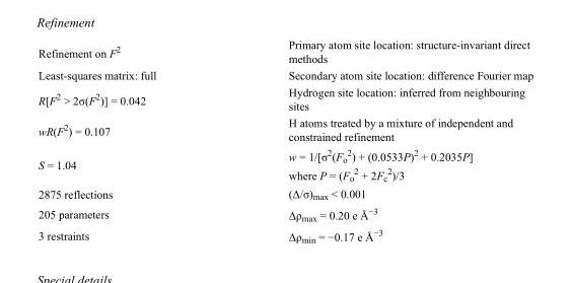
<table><tbody><tr><td>Refinement on F<sup>2</sup></td><td>Primary atom site location: structure-invariant direct methods</td></tr><tr><td>Least-squares matrix: full</td><td>Secondary atom site location: difference Fourier map</td></tr><tr><td>R[F<sup>2</sup> &gt; 2σ(F<sup>2</sup>)] = 0.042</td><td>Hydrogen site location: inferred from neighbouring sites</td></tr><tr><td>wR(F<sup>2</sup>) = 0.107</td><td>H atoms treated by a mixture of independent and constrained refinement</td></tr><tr><td>S = 1.04</td><td>w = 1/[σ<sup>2</sup>(F<sub>o</sub> <sup>2</sup>) + (0.0533P)<sup>2</sup> + 0.2035P] where P = (F<sub>o</sub> <sup>2</sup> + 2F<sub>c</sub> <sup>2</sup>)/3</td></tr><tr><td>2875 reflections</td><td>(Δ/σ)<sub>max</sub> &lt; 0.001</td></tr><tr><td>205 parameters</td><td>Δρ<sub>max</sub> = 0.20 e Å<sup>−3</sup></td></tr><tr><td>3 restraints</td><td>Δρ<sub>min</sub> = −0.17 e Å<sup>−3</sup></td></tr></tbody></table>